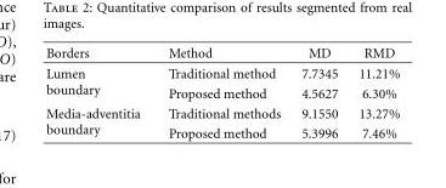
<table><thead><tr><td>Borders</td><td>Method</td><td>MD</td><td>RMD</td></tr></thead><tbody><tr><td rowspan="2">Lumen boundary</td><td>Traditional method</td><td>7.7345</td><td>11.21%</td></tr><tr><td>Proposed method</td><td>4.5627</td><td>6.30%</td></tr><tr><td rowspan="2">Media-adventitia boundary</td><td>Traditional methods</td><td>9.1550</td><td>13.27%</td></tr><tr><td>Proposed method</td><td>5.3996</td><td>7.46%</td></tr></tbody></table>